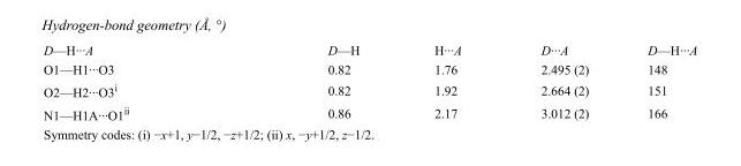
<table><tbody><tr><td>D—H···A</td><td>D—H</td><td>H···A</td><td>D···A</td><td>D—H···A</td></tr><tr><td>O1—H1···O3</td><td>0.82</td><td>1.76</td><td>2.495 (2)</td><td>148</td></tr><tr><td>O2—H2···O3<sup>i</sup></td><td>0.82</td><td>1.92</td><td>2.664 (2)</td><td>151</td></tr><tr><td>N1—H1A···O1<sup>ii</sup></td><td>0.86</td><td>2.17</td><td>3.012 (2)</td><td>166</td></tr></tbody></table>